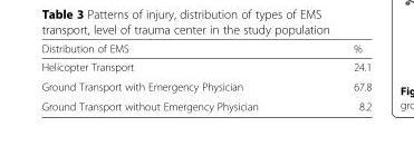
<table><thead><tr><td>Distribution of EMS</td><td>%</td></tr></thead><tbody><tr><td>Helicopter Transport</td><td>24.1</td></tr><tr><td>Ground Transport with Emergency Physician</td><td>67.8</td></tr><tr><td>Ground Transport without Emergency Physician</td><td>8.2</td></tr></tbody></table>